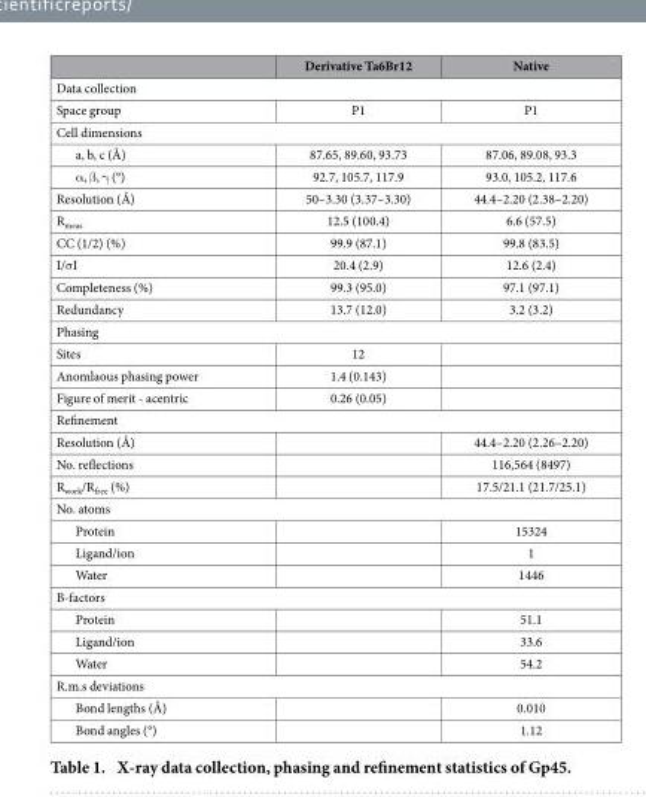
<table><thead><tr><td></td><td>Derivative Ta6Br12</td><td>Native</td></tr></thead><tbody><tr><td colspan="3">Data collection</td></tr><tr><td>Space group</td><td>P1</td><td>P1</td></tr><tr><td colspan="3">Cell dimensions</td></tr><tr><td>a, b, c (Å)</td><td>87.65, 89.60, 93.73</td><td>87.06, 89.08, 93.3</td></tr><tr><td>α , β, γ (°)</td><td>92.7, 105.7, 117.9</td><td>93.0, 105.2, 117.6</td></tr><tr><td>Resolution (Å)</td><td>50–3.30 (3.37–3.30)</td><td>44.4–2.20 (2.38–2.20)</td></tr><tr><td>R<sub>meas</sub></td><td>12.5 (100.4)</td><td>6.6 (57.5)</td></tr><tr><td>CC (1/2) (%)</td><td>99.9 (87.1)</td><td>99.8 (83.5)</td></tr><tr><td>I/σ I</td><td>20.4 (2.9)</td><td>12.6 (2.4)</td></tr><tr><td>Completeness (%)</td><td>99.3 (95.0)</td><td>97.1 (97.1)</td></tr><tr><td>Redundancy</td><td>13.7 (12.0)</td><td>3.2 (3.2)</td></tr><tr><td colspan="3">Phasing</td></tr><tr><td>Sites</td><td>12</td><td></td></tr><tr><td>Anomlaous phasing power</td><td>1.4 (0.143)</td><td></td></tr><tr><td>Figure of merit - acentric</td><td>0.26 (0.05)</td><td></td></tr><tr><td colspan="3">Refinement</td></tr><tr><td>Resolution (Å)</td><td></td><td>44.4–2.20 (2.26–2.20)</td></tr><tr><td>No. reflections</td><td></td><td>116,564 (8497)</td></tr><tr><td>R<sub>work</sub>/R<sub>free</sub> (%)</td><td></td><td>17.5/21.1 (21.7/25.1)</td></tr><tr><td colspan="3">No. atoms</td></tr><tr><td>Protein</td><td></td><td>15324</td></tr><tr><td>Ligand/ion</td><td></td><td>1</td></tr><tr><td>Water</td><td></td><td>1446</td></tr><tr><td colspan="3">B-factors</td></tr><tr><td>Protein</td><td></td><td>51.1</td></tr><tr><td>Ligand/ion</td><td></td><td>33.6</td></tr><tr><td>Water</td><td></td><td>54.2</td></tr><tr><td colspan="3">R.m.s deviations</td></tr><tr><td>Bond lengths (Å)</td><td></td><td>0.010</td></tr><tr><td>Bond angles (°)</td><td></td><td>1.12</td></tr></tbody></table>